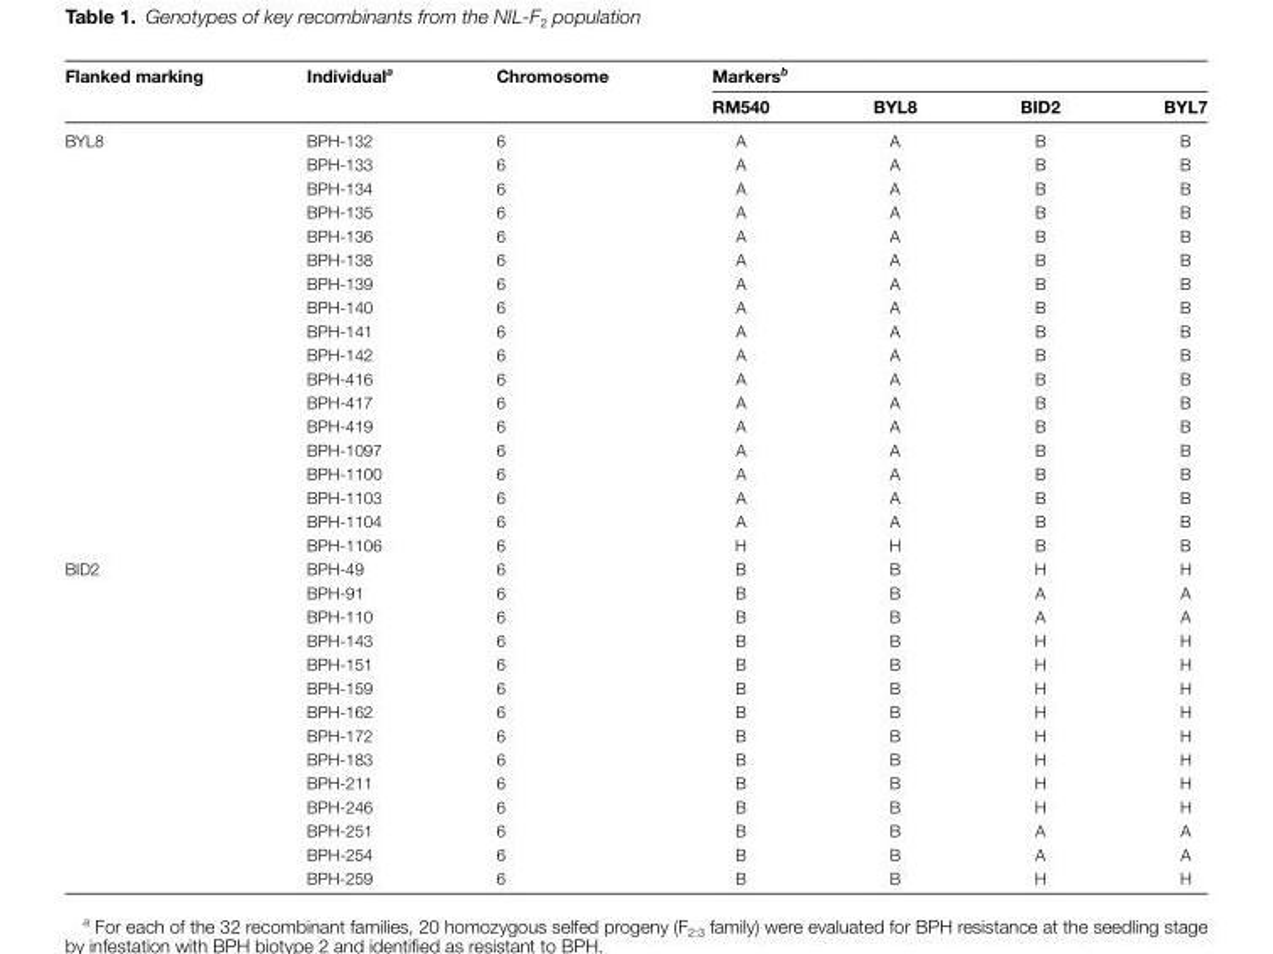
<table><thead><tr><td rowspan="2">Flanked marking</td><td rowspan="2">Individual<sup>a</sup></td><td rowspan="2">Chromosome</td><td colspan="4">Markers<sup>b</sup></td></tr><tr><td>RM540</td><td>BYL8</td><td>BID2</td><td>BYL7</td></tr></thead><tbody><tr><td rowspan="18">BYL8</td><td>BPH-132</td><td>6</td><td>A</td><td>A</td><td>B</td><td>B</td></tr><tr><td>BPH-133</td><td>6</td><td>A</td><td>A</td><td>B</td><td>B</td></tr><tr><td>BPH-134</td><td>6</td><td>A</td><td>A</td><td>B</td><td>B</td></tr><tr><td>BPH-135</td><td>6</td><td>A</td><td>A</td><td>B</td><td>B</td></tr><tr><td>BPH-136</td><td>6</td><td>A</td><td>A</td><td>B</td><td>B</td></tr><tr><td>BPH-138</td><td>6</td><td>A</td><td>A</td><td>B</td><td>B</td></tr><tr><td>BPH-139</td><td>6</td><td>A</td><td>A</td><td>B</td><td>B</td></tr><tr><td>BPH-140</td><td>6</td><td>A</td><td>A</td><td>B</td><td>B</td></tr><tr><td>BPH-141</td><td>6</td><td>A</td><td>A</td><td>B</td><td>B</td></tr><tr><td>BPH-142</td><td>6</td><td>A</td><td>A</td><td>B</td><td>B</td></tr><tr><td>BPH-416</td><td>6</td><td>A</td><td>A</td><td>B</td><td>B</td></tr><tr><td>BPH-417</td><td>6</td><td>A</td><td>A</td><td>B</td><td>B</td></tr><tr><td>BPH-419</td><td>6</td><td>A</td><td>A</td><td>B</td><td>B</td></tr><tr><td>BPH-1097</td><td>6</td><td>A</td><td>A</td><td>B</td><td>B</td></tr><tr><td>BPH-1100</td><td>6</td><td>A</td><td>A</td><td>B</td><td>B</td></tr><tr><td>BPH-1103</td><td>6</td><td>A</td><td>A</td><td>B</td><td>B</td></tr><tr><td>BPH-1104</td><td>6</td><td>A</td><td>A</td><td>B</td><td>B</td></tr><tr><td>BPH-1106</td><td>6</td><td>H</td><td>H</td><td>B</td><td>B</td></tr><tr><td rowspan="14">BID2</td><td>BPH-49</td><td>6</td><td>B</td><td>B</td><td>H</td><td>H</td></tr><tr><td>BPH-91</td><td>6</td><td>B</td><td>B</td><td>A</td><td>A</td></tr><tr><td>BPH-110</td><td>6</td><td>B</td><td>B</td><td>A</td><td>A</td></tr><tr><td>BPH-143</td><td>6</td><td>B</td><td>B</td><td>H</td><td>H</td></tr><tr><td>BPH-151</td><td>6</td><td>B</td><td>B</td><td>H</td><td>H</td></tr><tr><td>BPH-159</td><td>6</td><td>B</td><td>B</td><td>H</td><td>H</td></tr><tr><td>BPH-162</td><td>6</td><td>B</td><td>B</td><td>H</td><td>H</td></tr><tr><td>BPH-172</td><td>6</td><td>B</td><td>B</td><td>H</td><td>H</td></tr><tr><td>BPH-183</td><td>6</td><td>B</td><td>B</td><td>H</td><td>H</td></tr><tr><td>BPH-211</td><td>6</td><td>B</td><td>B</td><td>H</td><td>H</td></tr><tr><td>BPH-246</td><td>6</td><td>B</td><td>B</td><td>H</td><td>H</td></tr><tr><td>BPH-251</td><td>6</td><td>B</td><td>B</td><td>A</td><td>A</td></tr><tr><td>BPH-254</td><td>6</td><td>B</td><td>B</td><td>A</td><td>A</td></tr><tr><td>BPH-259</td><td>6</td><td>B</td><td>B</td><td>H</td><td>H</td></tr></tbody></table>